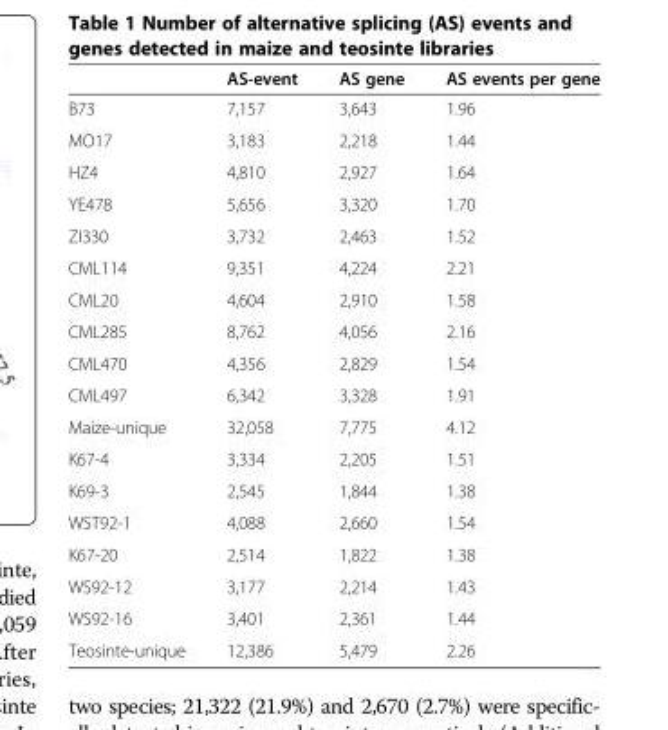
<table><thead><tr><td></td><td>AS-event</td><td>AS gene</td><td>AS events per gene</td></tr></thead><tbody><tr><td>B73</td><td>7,157</td><td>3,643</td><td>1.96</td></tr><tr><td>MO17</td><td>3,183</td><td>2,218</td><td>1.44</td></tr><tr><td>HZ4</td><td>4,810</td><td>2,927</td><td>1.64</td></tr><tr><td>YE478</td><td>5,656</td><td>3,320</td><td>1.70</td></tr><tr><td>ZI330</td><td>3,732</td><td>2,463</td><td>1.52</td></tr><tr><td>CML114</td><td>9,351</td><td>4,224</td><td>2.21</td></tr><tr><td>CML20</td><td>4,604</td><td>2,910</td><td>1.58</td></tr><tr><td>CML285</td><td>8,762</td><td>4,056</td><td>2.16</td></tr><tr><td>CML470</td><td>4,356</td><td>2,829</td><td>1.54</td></tr><tr><td>CML497</td><td>6,342</td><td>3,328</td><td>1.91</td></tr><tr><td>Maize-unique</td><td>32,058</td><td>7,775</td><td>4.12</td></tr><tr><td>K67-4</td><td>3,334</td><td>2,205</td><td>1.51</td></tr><tr><td>K69-3</td><td>2,545</td><td>1,844</td><td>1.38</td></tr><tr><td>WST92-1</td><td>4,088</td><td>2,660</td><td>1.54</td></tr><tr><td>K67-20</td><td>2,514</td><td>1,822</td><td>1.38</td></tr><tr><td>WS92-12</td><td>3,177</td><td>2,214</td><td>1.43</td></tr><tr><td>WS92-16</td><td>3,401</td><td>2,361</td><td>1.44</td></tr><tr><td>Teosinte-unique</td><td>12,386</td><td>5,479</td><td>2.26</td></tr></tbody></table>